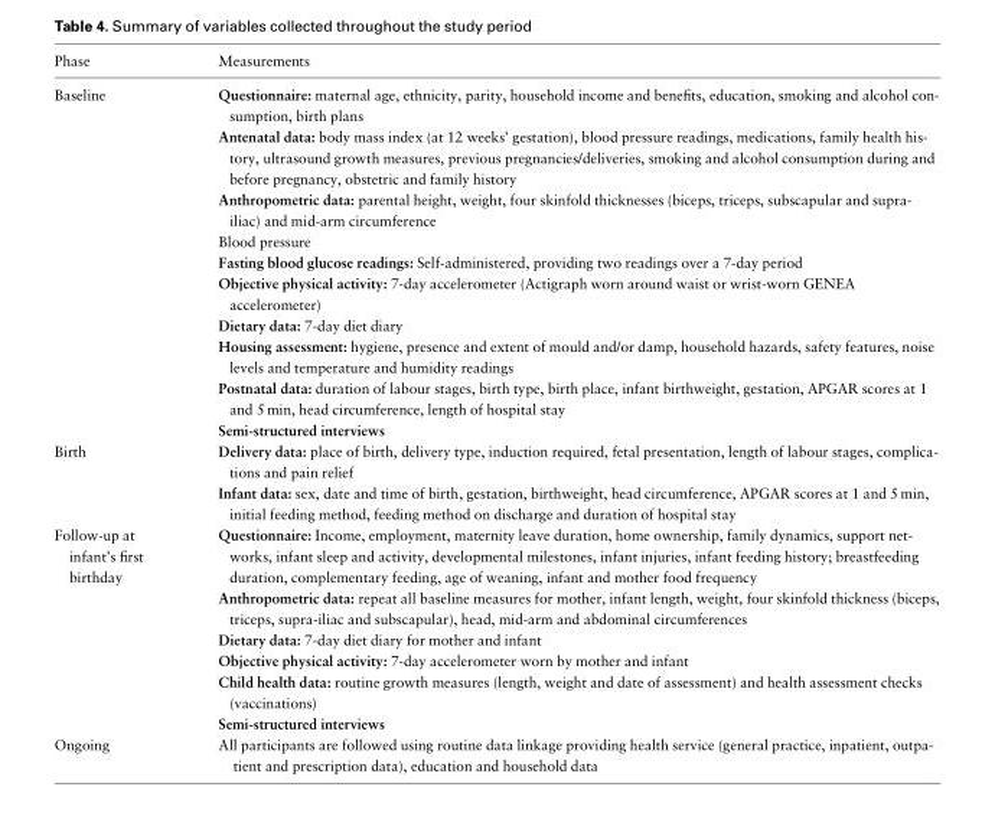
<table><thead><tr><td>Phase</td><td>Measurements</td></tr></thead><tbody><tr><td>Baseline</td><td>Questionnaire: maternal age, ethnicity, parity, household income and benefits, education, smoking and alcohol con- sumption, birth plans Antenatal data: body mass index (at 12 weeks’ gestation), blood pressure readings, medications, family health his- tory, ultrasound growth measures, previous pregnancies/deliveries, smoking and alcohol consumption during and before pregnancy, obstetric and family history Anthropometric data: parental height, weight, four skinfold thicknesses (biceps, triceps, subscapular and supra- iliac) and mid-arm circumference Blood pressure Fasting blood glucose readings: Self-administered, providing two readings over a 7-day period Objective physical activity: 7-day accelerometer (Actigraph worn around waist or wrist-worn GENEA accelerometer) Dietary data: 7-day diet diary Housing assessment: hygiene, presence and extent of mould and/or damp, household hazards, safety features, noise levels and temperature and humidity readings Postnatal data: duration of labour stages, birth type, birth place, infant birthweight, gestation, APGAR scores at 1 and 5 min, head circumference, length of hospital stay Semi-structured interviews</td></tr><tr><td>Birth</td><td>Delivery data: place of birth, delivery type, induction required, fetal presentation, length of labour stages, complica- tions and pain relief Infant data: sex, date and time of birth, gestation, birthweight, head circumference, APGAR scores at 1 and 5 min, initial feeding method, feeding method on discharge and duration of hospital stay</td></tr><tr><td>Follow-up at infant’s first birthday</td><td>Questionnaire: Income, employment, maternity leave duration, home ownership, family dynamics, support net- works, infant sleep and activity, developmental milestones, infant injuries, infant feeding history; breastfeeding duration, complementary feeding, age of weaning, infant and mother food frequency Anthropometric data: repeat all baseline measures for mother, infant length, weight, four skinfold thickness (biceps, triceps, supra-iliac and subscapular), head, mid-arm and abdominal circumferences Dietary data: 7-day diet diary for mother and infant Objective physical activity: 7-day accelerometer worn by mother and infant Child health data: routine growth measures (length, weight and date of assessment) and health assessment checks (vaccinations) Semi-structured interviews</td></tr><tr><td>Ongoing</td><td>All participants are followed using routine data linkage providing health service (general practice, inpatient, outpa- tient and prescription data), education and household data</td></tr></tbody></table>